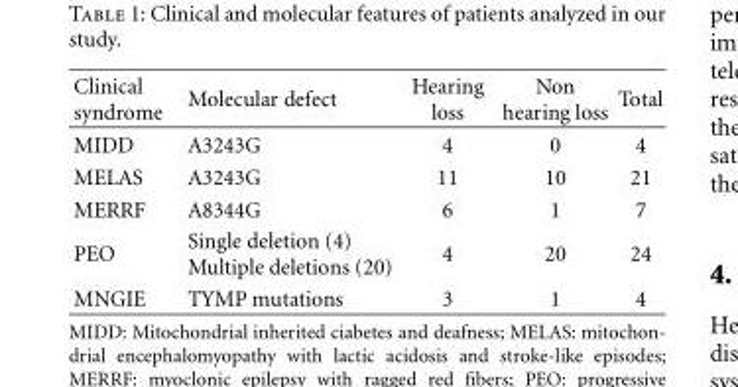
<table><thead><tr><td>Clinical syndrome</td><td>Molecular defect</td><td>Hearing loss</td><td>Non hearing loss</td><td>Total</td></tr></thead><tbody><tr><td>MIDD</td><td>A3243G</td><td>4</td><td>0</td><td>4</td></tr><tr><td>MELAS</td><td>A3243G</td><td>11</td><td>10</td><td>21</td></tr><tr><td>MERRF</td><td>A8344G</td><td>6</td><td>1</td><td>7</td></tr><tr><td>PEO</td><td>Single deletion (4) Multiple deletions (20)</td><td>4</td><td>20</td><td>24</td></tr><tr><td>MNGIE</td><td>TYMP mutations</td><td>3</td><td>1</td><td>4</td></tr></tbody></table>